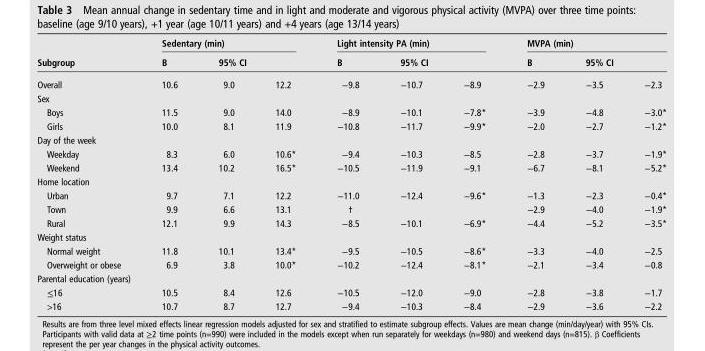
<table><thead><tr><td rowspan="3">Subgroup Overall</td><td colspan="3">Sedentary (min)</td><td colspan="3">Light intensity PA (min)</td><td colspan="3">MVPA (min)</td></tr><tr><td rowspan="2">B 10.6</td><td colspan="2">95% CI</td><td rowspan="2">B −9.8</td><td colspan="2">95% CI</td><td rowspan="2">B −2.9</td><td colspan="2">95% CI</td></tr><tr><td>9.0</td><td>12.2</td><td>−10.7</td><td>−8.9</td><td>−3.5</td><td>−2.3</td></tr></thead><tbody><tr><td colspan="10">Sex</td></tr><tr><td>Boys</td><td>11.5</td><td>9.0</td><td>14.0</td><td>−8.9</td><td>−10.1</td><td>−7.8*</td><td>−3.9</td><td>−4.8</td><td>−3.0*</td></tr><tr><td>Girls</td><td>10.0</td><td>8.1</td><td>11.9</td><td>−10.8</td><td>−11.7</td><td>−9.9*</td><td>−2.0</td><td>−2.7</td><td>−1.2*</td></tr><tr><td colspan="10">Day of the week</td></tr><tr><td>Weekday</td><td>8.3</td><td>6.0</td><td>10.6*</td><td>−9.4</td><td>−10.3</td><td>−8.5</td><td>−2.8</td><td>−3.7</td><td>−1.9*</td></tr><tr><td>Weekend</td><td>13.4</td><td>10.2</td><td>16.5*</td><td>−10.5</td><td>−11.9</td><td>−9.1</td><td>−6.7</td><td>−8.1</td><td>−5.2*</td></tr><tr><td colspan="10">Home location</td></tr><tr><td>Urban</td><td>9.7</td><td>7.1</td><td>12.2</td><td>−11.0</td><td>−12.4</td><td>−9.6*</td><td>−1.3</td><td>−2.3</td><td>−0.4*</td></tr><tr><td>Town</td><td>9.9</td><td>6.6</td><td>13.1</td><td>†</td><td></td><td></td><td>−2.9</td><td>−4.0</td><td>−1.9*</td></tr><tr><td>Rural</td><td>12.1</td><td>9.9</td><td>14.3</td><td>−8.5</td><td>−10.1</td><td>−6.9*</td><td>−4.4</td><td>−5.2</td><td>−3.5*</td></tr><tr><td colspan="10">Weight status</td></tr><tr><td>Normal weight</td><td>11.8</td><td>10.1</td><td>13.4*</td><td>−9.5</td><td>−10.5</td><td>−8.6*</td><td>−3.3</td><td>−4.0</td><td>−2.5</td></tr><tr><td>Overweight or obese</td><td>6.9</td><td>3.8</td><td>10.0*</td><td>−10.2</td><td>−12.4</td><td>−8.1*</td><td>−2.1</td><td>−3.4</td><td>−0.8</td></tr><tr><td colspan="10">Parental education (years)</td></tr><tr><td>≤16</td><td>10.5</td><td>8.4</td><td>12.6</td><td>−10.5</td><td>−12.0</td><td>−9.0</td><td>−2.8</td><td>−3.8</td><td>−1.7</td></tr><tr><td>&gt;16</td><td>10.7</td><td>8.7</td><td>12.7</td><td>−9.4</td><td>−10.3</td><td>−8.4</td><td>−2.9</td><td>−3.6</td><td>−2.2</td></tr></tbody></table>